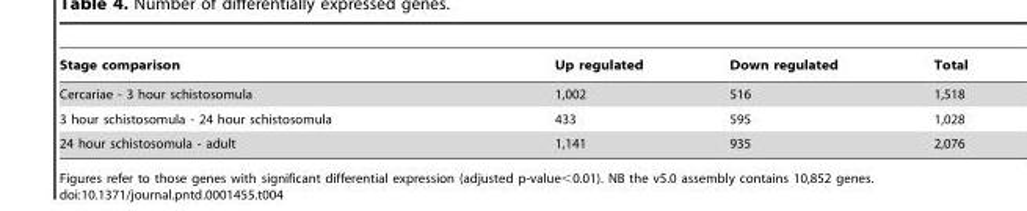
<table><thead><tr><td>Stage comparison</td><td>Up regulated</td><td>Down regulated</td><td>Total</td></tr></thead><tbody><tr><td>Cercariae - 3 hour schistosomula</td><td>1,002</td><td>516</td><td>1,518</td></tr><tr><td>3 hour schistosomula - 24 hour schistosomula</td><td>433</td><td>595</td><td>1,028</td></tr><tr><td>24 hour schistosomula - adult</td><td>1,141</td><td>935</td><td>2,076</td></tr></tbody></table>